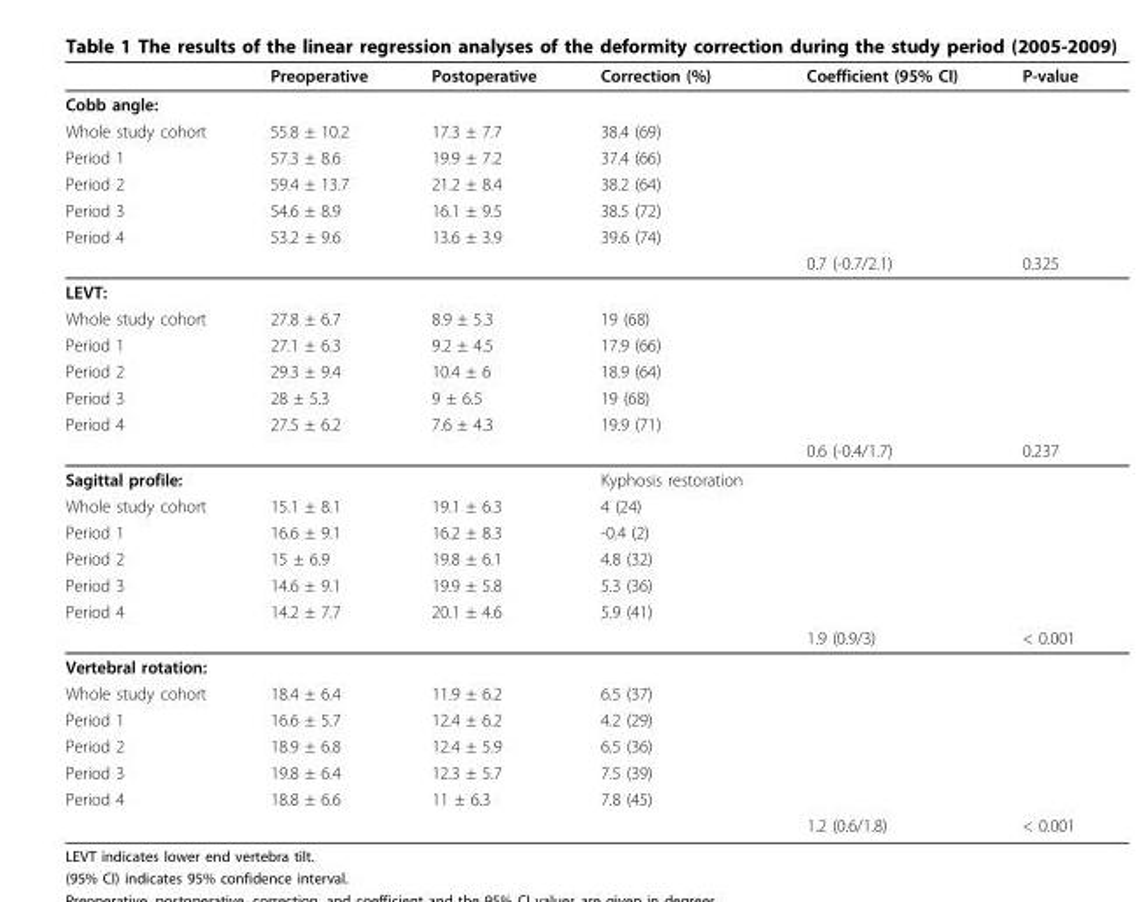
<table><thead><tr><td></td><td>Preoperative</td><td>Postoperative</td><td>Correction (%)</td><td>Coefficient (95% CI)</td><td>P-value</td></tr></thead><tbody><tr><td colspan="6">Cobb angle:</td></tr><tr><td>Whole study cohort</td><td>55.8 ± 10.2</td><td>17.3 ± 7.7</td><td>38.4 (69)</td><td></td><td></td></tr><tr><td>Period 1</td><td>57.3 ± 8.6</td><td>19.9 ± 7.2</td><td>37.4 (66)</td><td></td><td></td></tr><tr><td>Period 2</td><td>59.4 ± 13.7</td><td>21.2 ± 8.4</td><td>38.2 (64)</td><td></td><td></td></tr><tr><td>Period 3</td><td>54.6 ± 8.9</td><td>16.1 ± 9.5</td><td>38.5 (72)</td><td></td><td></td></tr><tr><td rowspan="2">Period 4</td><td>53.2 ± 9.6</td><td>13.6 ± 3.9</td><td>39.6 (74)</td><td></td><td></td></tr><tr><td></td><td></td><td></td><td>0.7 (-0.7/2.1)</td><td>0.325</td></tr><tr><td colspan="6">LEVT:</td></tr><tr><td>Whole study cohort</td><td>27.8 ± 6.7</td><td>8.9 ± 5.3</td><td>19 (68)</td><td></td><td></td></tr><tr><td>Period 1</td><td>27.1 ± 6.3</td><td>9.2 ± 4.5</td><td>17.9 (66)</td><td></td><td></td></tr><tr><td>Period 2</td><td>29.3 ± 9.4</td><td>10.4 ± 6</td><td>18.9 (64)</td><td></td><td></td></tr><tr><td>Period 3</td><td>28 ± 5.3</td><td>9 ± 6.5</td><td>19 (68)</td><td></td><td></td></tr><tr><td rowspan="2">Period 4</td><td>27.5 ± 6.2</td><td>7.6 ± 4.3</td><td>19.9 (71)</td><td></td><td></td></tr><tr><td></td><td></td><td></td><td>0.6 (-0.4/1.7)</td><td>0.237</td></tr><tr><td>Sagittal profile:</td><td></td><td></td><td>Kyphosis restoration</td><td></td><td></td></tr><tr><td>Whole study cohort</td><td>15.1 ± 8.1</td><td>19.1 ± 6.3</td><td>4 (24)</td><td></td><td></td></tr><tr><td>Period 1</td><td>16.6 ± 9.1</td><td>16.2 ± 8.3</td><td>-0.4 (2)</td><td></td><td></td></tr><tr><td>Period 2</td><td>15 ± 6.9</td><td>19.8 ± 6.1</td><td>4.8 (32)</td><td></td><td></td></tr><tr><td>Period 3</td><td>14.6 ± 9.1</td><td>19.9 ± 5.8</td><td>5.3 (36)</td><td></td><td></td></tr><tr><td rowspan="2">Period 4</td><td>14.2 ± 7.7</td><td>20.1 ± 4.6</td><td>5.9 (41)</td><td></td><td></td></tr><tr><td></td><td></td><td></td><td>1.9 (0.9/3)</td><td>&lt; 0.001</td></tr><tr><td colspan="6">Vertebral rotation:</td></tr><tr><td>Whole study cohort</td><td>18.4 ± 6.4</td><td>11.9 ± 6.2</td><td>6.5 (37)</td><td></td><td></td></tr><tr><td>Period 1</td><td>16.6 ± 5.7</td><td>12.4 ± 6.2</td><td>4.2 (29)</td><td></td><td></td></tr><tr><td>Period 2</td><td>18.9 ± 6.8</td><td>12.4 ± 5.9</td><td>6.5 (36)</td><td></td><td></td></tr><tr><td>Period 3</td><td>19.8 ± 6.4</td><td>12.3 ± 5.7</td><td>7.5 (39)</td><td></td><td></td></tr><tr><td rowspan="2">Period 4</td><td>18.8 ± 6.6</td><td>11 ± 6.3</td><td>7.8 (45)</td><td></td><td></td></tr><tr><td></td><td></td><td></td><td>1.2 (0.6/1.8)</td><td>&lt; 0.001</td></tr></tbody></table>